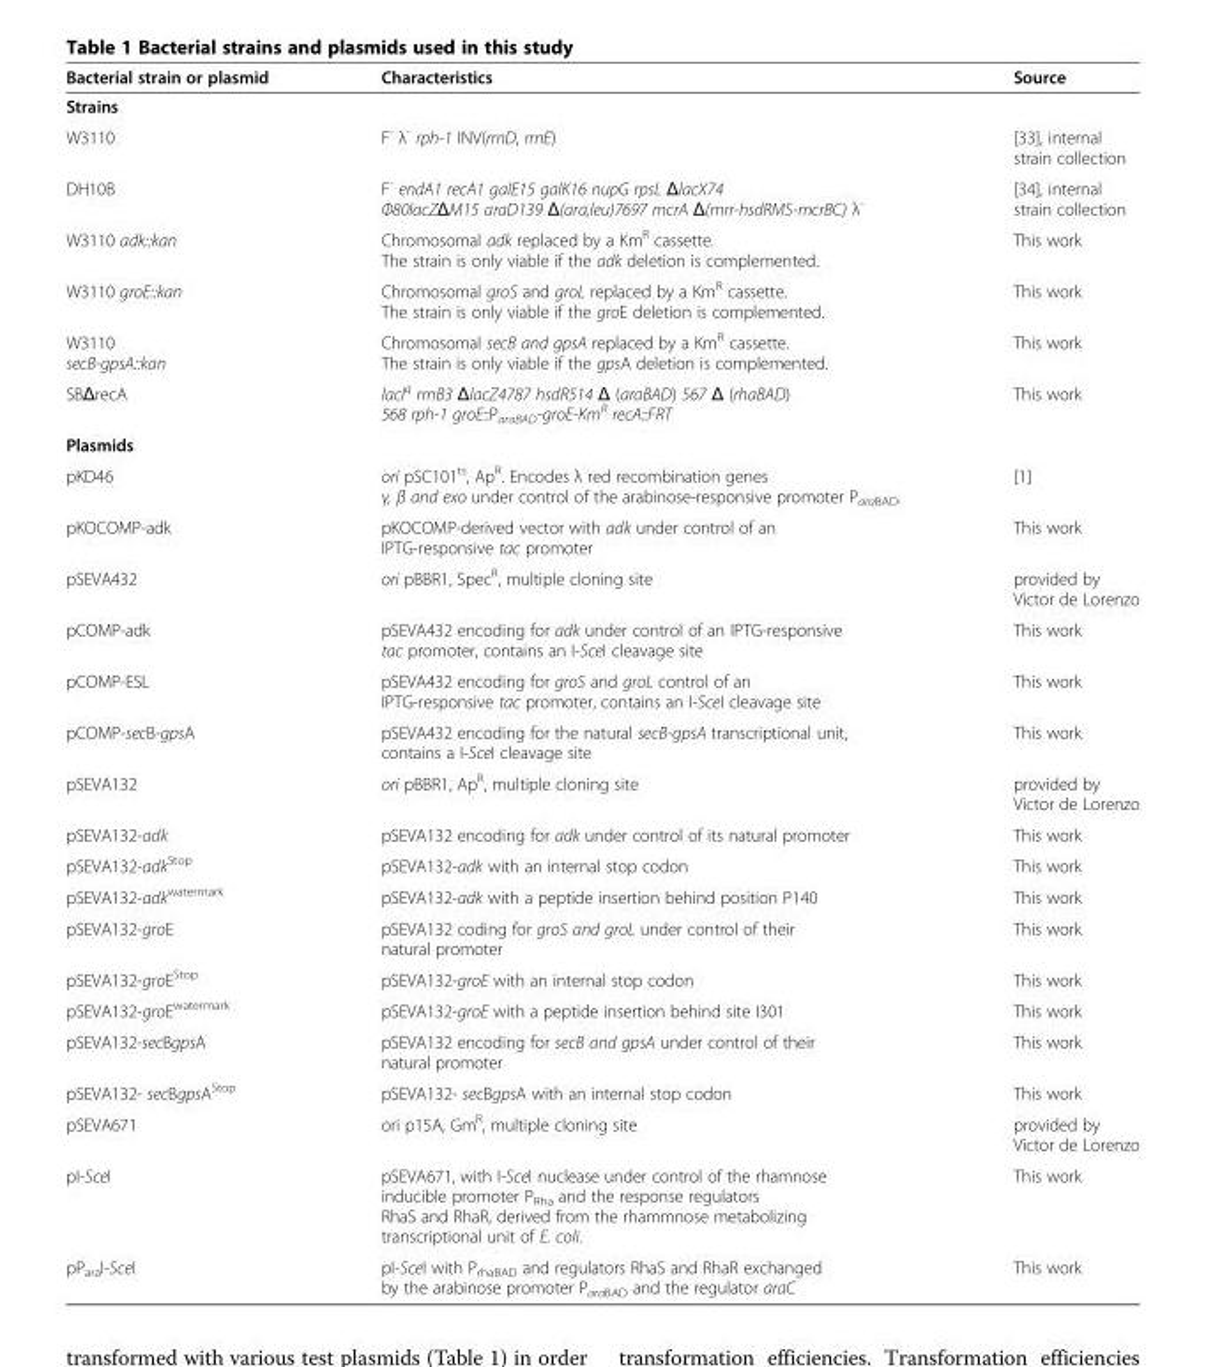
<table><thead><tr><td>Bacterial strain or plasmid</td><td>Characteristics</td><td>Source</td></tr></thead><tbody><tr><td colspan="3">Strains</td></tr><tr><td>W3110</td><td>F<sup>-</sup> λ<sup>-</sup> rph-1 INV(rrnD, rrnE)</td><td>[33], internal strain collection</td></tr><tr><td>DH10B</td><td>F<sup>-</sup> endA1 recA1 galE15 galK16 nupG rpsL ΔlacX74 Φ80lacZΔM15 araD139 Δ(ara,leu)7697 mcrA Δ(mrr-hsdRMS-mcrBC) λ<sup>-</sup></td><td>[34], internal strain collection</td></tr><tr><td>W3110 adk::kan</td><td>Chromosomal adk replaced by a Km<sup>R</sup> cassette. The strain is only viable if the adk deletion is complemented.</td><td>This work</td></tr><tr><td>W3110 groE::kan</td><td>Chromosomal groS and groL replaced by a Km<sup>R</sup> cassette. The strain is only viable if the groE deletion is complemented.</td><td>This work</td></tr><tr><td>W3110 secB-gpsA::kan</td><td>Chromosomal secB and gpsA replaced by a Km<sup>R</sup> cassette. The strain is only viable if the gpsA deletion is complemented.</td><td>This work</td></tr><tr><td>SBΔrecA</td><td>lacI<sup>q</sup> rrnB3 ΔlacZ4787 hsdR514 Δ (araBAD) 567 Δ (rhaBAD) 568 rph-1 groE::P<sub>araBAD</sub>-groE-Km<sup>R</sup> recA::FRT</td><td>This work</td></tr><tr><td colspan="3">Plasmids</td></tr><tr><td>pKD46</td><td>ori pSC101<sup>ts</sup>, Ap<sup>R</sup>. Encodes λ red recombination genes γ, β and exo under control of the arabinose-responsive promoter P<sub>araBAD</sub>.</td><td>[1]</td></tr><tr><td>pKOCOMP-adk</td><td>pKOCOMP-derived vector with adk under control of an IPTG-responsive tac promoter</td><td>This work</td></tr><tr><td>pSEVA432</td><td>ori pBBR1, Spec<sup>R</sup>, multiple cloning site</td><td>provided by Victor de Lorenzo</td></tr><tr><td>pCOMP-adk</td><td>pSEVA432 encoding for adk under control of an IPTG-responsive tac promoter, contains an I-SceI cleavage site</td><td>This work</td></tr><tr><td>pCOMP-ESL</td><td>pSEVA432 encoding for groS and groL control of an IPTG-responsive tac promoter, contains an I-SceI cleavage site</td><td>This work</td></tr><tr><td>pCOMP-secB-gpsA</td><td>pSEVA432 encoding for the natural secB-gpsA transcriptional unit, contains a I-SceI cleavage site</td><td>This work</td></tr><tr><td>pSEVA132</td><td>ori pBBR1, Ap<sup>R</sup>, multiple cloning site</td><td>provided by Victor de Lorenzo</td></tr><tr><td>pSEVA132-adk</td><td>pSEVA132 encoding for adk under control of its natural promoter</td><td>This work</td></tr><tr><td>pSEVA132-adk<sup>Stop</sup></td><td>pSEVA132-adk with an internal stop codon</td><td>This work</td></tr><tr><td>pSEVA132-adk<sup>watermark</sup></td><td>pSEVA132-adk with a peptide insertion behind position P140</td><td>This work</td></tr><tr><td>pSEVA132-groE</td><td>pSEVA132 coding for groS and groL under control of their natural promoter</td><td>This work</td></tr><tr><td>pSEVA132-groE<sup>Stop</sup></td><td>pSEVA132-groE with an internal stop codon</td><td>This work</td></tr><tr><td>pSEVA132-groE<sup>watermark</sup></td><td>pSEVA132-groE with a peptide insertion behind site I301</td><td>This work</td></tr><tr><td>pSEVA132-secBgpsA</td><td>pSEVA132 encoding for secB and gpsA under control of their natural promoter</td><td>This work</td></tr><tr><td>pSEVA132- secBgpsA<sup>Stop</sup></td><td>pSEVA132- secBgpsA with an internal stop codon</td><td>This work</td></tr><tr><td>pSEVA671</td><td>ori p15A, Gm<sup>R</sup>, multiple cloning site</td><td>provided by Victor de Lorenzo</td></tr><tr><td>pI-SceI</td><td>pSEVA671, with I-SceI nuclease under control of the rhamnose inducible promoter P<sub>Rha</sub> and the response regulators RhaS and RhaR, derived from the rhammnose metabolizing transcriptional unit of E. coli.</td><td>This work</td></tr><tr><td>pP<sub>ara</sub>I-SceI</td><td>pI-SceI with P<sub>rhaBAD</sub> and regulators RhaS and RhaR exchanged by the arabinose promoter P<sub>araBAD</sub> and the regulator araC</td><td>This work</td></tr></tbody></table>